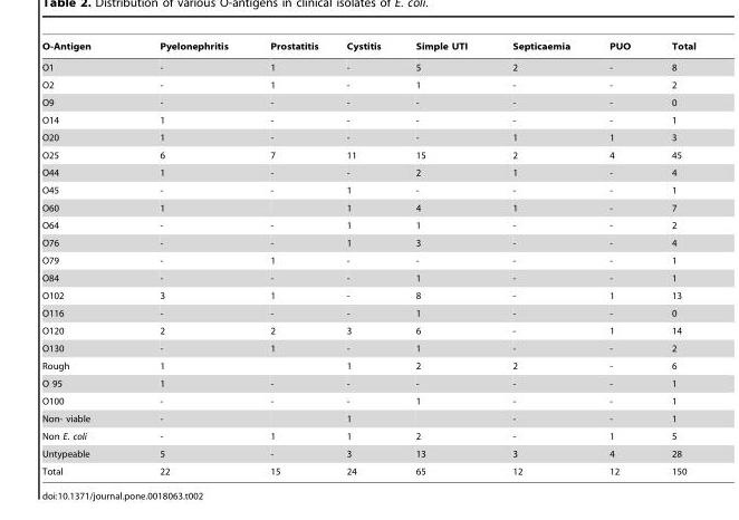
<table><thead><tr><td>O-Antigen</td><td>Pyelonephritis</td><td>Prostatitis</td><td>Cystitis</td><td>Simple UTI</td><td>Septicaemia</td><td>PUO</td><td>Total</td></tr></thead><tbody><tr><td>O1</td><td>-</td><td>1</td><td>-</td><td>5</td><td>2</td><td>-</td><td>8</td></tr><tr><td>O2</td><td>-</td><td>1</td><td>-</td><td>1</td><td>-</td><td>-</td><td>2</td></tr><tr><td>O9</td><td>-</td><td>-</td><td>-</td><td>-</td><td>-</td><td>-</td><td>0</td></tr><tr><td>O14</td><td>1</td><td>-</td><td>-</td><td>-</td><td>-</td><td>-</td><td>1</td></tr><tr><td>O20</td><td>1</td><td>-</td><td>-</td><td>-</td><td>1</td><td>1</td><td>3</td></tr><tr><td>O25</td><td>6</td><td>7</td><td>11</td><td>15</td><td>2</td><td>4</td><td>45</td></tr><tr><td>O44</td><td>1</td><td>-</td><td>-</td><td>2</td><td>1</td><td>-</td><td>4</td></tr><tr><td>O45</td><td>-</td><td>-</td><td>1</td><td>-</td><td>-</td><td>-</td><td>1</td></tr><tr><td>O60</td><td>1</td><td></td><td>1</td><td>4</td><td>1</td><td>-</td><td>7</td></tr><tr><td>O64</td><td>-</td><td>-</td><td>1</td><td>1</td><td>-</td><td>-</td><td>2</td></tr><tr><td>O76</td><td>-</td><td>-</td><td>1</td><td>3</td><td>-</td><td>-</td><td>4</td></tr><tr><td>O79</td><td>-</td><td>1</td><td>-</td><td>-</td><td>-</td><td>-</td><td>1</td></tr><tr><td>O84</td><td>-</td><td>-</td><td>-</td><td>1</td><td>-</td><td>-</td><td>1</td></tr><tr><td>O102</td><td>3</td><td>1</td><td>-</td><td>8</td><td>-</td><td>1</td><td>13</td></tr><tr><td>O116</td><td>-</td><td>-</td><td>-</td><td>1</td><td>-</td><td>-</td><td>0</td></tr><tr><td>O120</td><td>2</td><td>2</td><td>3</td><td>6</td><td>-</td><td>1</td><td>14</td></tr><tr><td>O130</td><td>-</td><td>1</td><td>-</td><td>1</td><td>-</td><td>-</td><td>2</td></tr><tr><td>Rough</td><td>1</td><td></td><td>1</td><td>2</td><td>2</td><td>-</td><td>6</td></tr><tr><td>O 95</td><td>1</td><td>-</td><td>-</td><td>-</td><td>-</td><td>-</td><td>1</td></tr><tr><td>O100</td><td>-</td><td>-</td><td>-</td><td>1</td><td>-</td><td>-</td><td>1</td></tr><tr><td>Non- viable</td><td>-</td><td></td><td>1</td><td></td><td>-</td><td>-</td><td>1</td></tr><tr><td>Non E. coli</td><td>-</td><td>1</td><td>1</td><td>2</td><td>-</td><td>1</td><td>5</td></tr><tr><td>Untypeable</td><td>5</td><td>-</td><td>3</td><td>13</td><td>3</td><td>4</td><td>28</td></tr><tr><td>Total</td><td>22</td><td>15</td><td>24</td><td>65</td><td>12</td><td>12</td><td>150</td></tr></tbody></table>